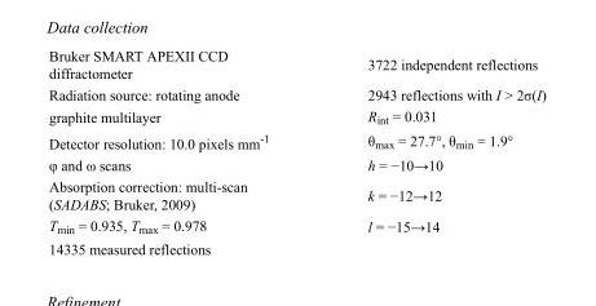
<table><tbody><tr><td>Bruker SMART APEXII CCD diffractometer</td><td>3722 independent reflections</td></tr><tr><td>Radiation source: rotating anode</td><td>2943 reflections with I &gt; 2σ(I)</td></tr><tr><td>graphite multilayer</td><td>R<sub>int</sub> = 0.031</td></tr><tr><td>Detector resolution: 10.0 pixels mm<sup>-1</sup></td><td>θ<sub>max</sub> = 27.7°, θ<sub>min</sub> = 1.9°</td></tr><tr><td>φ and ω scans</td><td>h = −10→10</td></tr><tr><td>Absorption correction: multi-scan (SADABS; Bruker, 2009)</td><td>k = −12→12</td></tr><tr><td>T<sub>min</sub> = 0.935, T<sub>max</sub> = 0.978</td><td>l = −15→14</td></tr><tr><td>14335 measured reflections</td><td></td></tr></tbody></table>